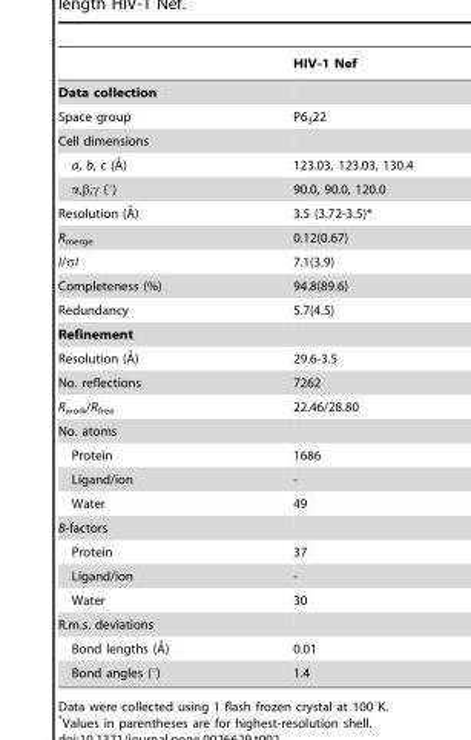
<table><thead><tr><td></td><td>HIV-1 Nef</td></tr></thead><tbody><tr><td colspan="2">Data collection</td></tr><tr><td>Space group</td><td>P6<sub>3</sub>22</td></tr><tr><td colspan="2">Cell dimensions</td></tr><tr><td>a, b, c (A˚)</td><td>123.03, 123.03, 130.4</td></tr><tr><td>α,β,γ (°)</td><td>90.0, 90.0, 120.0</td></tr><tr><td>Resolution (A˚)</td><td>3.5 (3.72-3.5)*</td></tr><tr><td>R<sub>merge</sub></td><td>0.12(0.67)</td></tr><tr><td>I/σI</td><td>7.1(3.9)</td></tr><tr><td>Completeness (%)</td><td>94.8(89.6)</td></tr><tr><td>Redundancy</td><td>5.7(4.5)</td></tr><tr><td colspan="2">Refinement</td></tr><tr><td>Resolution (A˚)</td><td>29.6-3.5</td></tr><tr><td>No. reflections</td><td>7262</td></tr><tr><td>R<sub>work</sub>/R<sub>free</sub></td><td>22.46/28.80</td></tr><tr><td colspan="2">No. atoms</td></tr><tr><td>Protein</td><td>1686</td></tr><tr><td>Ligand/ion</td><td>-</td></tr><tr><td>Water</td><td>49</td></tr><tr><td colspan="2">B-factors</td></tr><tr><td>Protein</td><td>37</td></tr><tr><td>Ligand/ion</td><td>-</td></tr><tr><td>Water</td><td>30</td></tr><tr><td colspan="2">R.m.s. deviations</td></tr><tr><td>Bond lengths (A˚)</td><td>0.01</td></tr><tr><td>Bond angles (°)</td><td>1.4</td></tr></tbody></table>